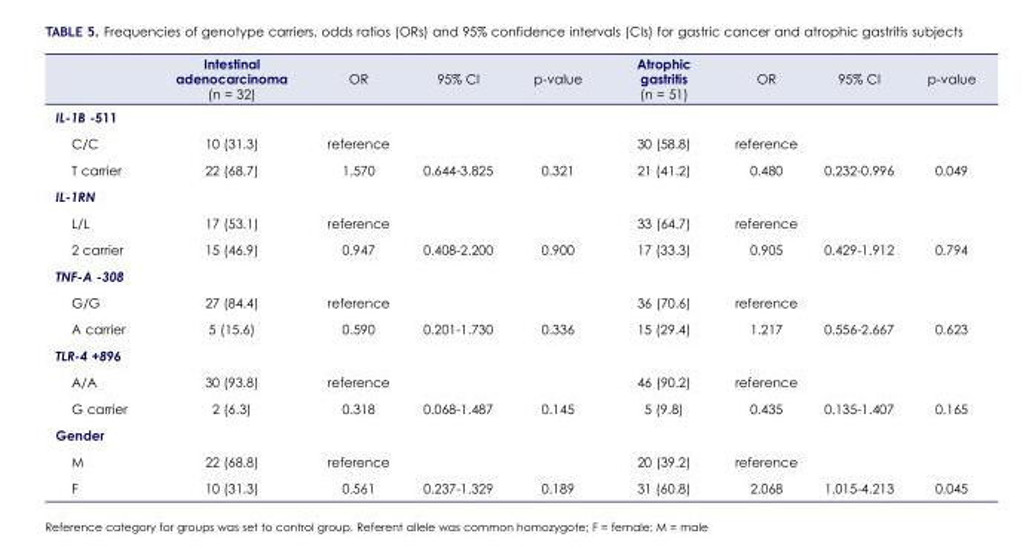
<table><thead><tr><td></td><td>Intestinal adenocarcinoma (n = 32)</td><td>OR</td><td>95% CI</td><td>p-value</td><td>Atrophic gastritis (n = 51)</td><td>OR</td><td>95% CI</td><td>p-value</td></tr></thead><tbody><tr><td colspan="9">IL-1B -511</td></tr><tr><td>C/C</td><td>10 (31.3)</td><td>reference</td><td></td><td></td><td>30 (58.8)</td><td>reference</td><td></td><td></td></tr><tr><td>T carrier</td><td>22 (68.7)</td><td>1.570</td><td>0.644-3.825</td><td>0.321</td><td>21 (41.2)</td><td>0.480</td><td>0.232-0.996</td><td>0.049</td></tr><tr><td colspan="9">IL-1RN</td></tr><tr><td>L/L</td><td>17 (53.1)</td><td>reference</td><td></td><td></td><td>33 (64.7)</td><td>reference</td><td></td><td></td></tr><tr><td>2 carrier</td><td>15 (46.9)</td><td>0.947</td><td>0.408-2.200</td><td>0.900</td><td>17 (33.3)</td><td>0.905</td><td>0.429-1.912</td><td>0.794</td></tr><tr><td colspan="9">TNF-A -308</td></tr><tr><td>G/G</td><td>27 (84.4)</td><td>reference</td><td></td><td></td><td>36 (70.6)</td><td>reference</td><td></td><td></td></tr><tr><td>A carrier</td><td>5 (15.6)</td><td>0.590</td><td>0.201-1.730</td><td>0.336</td><td>15 (29.4)</td><td>1.217</td><td>0.556-2.667</td><td>0.623</td></tr><tr><td colspan="9">TLR-4 +896</td></tr><tr><td>A/A</td><td>30 (93.8)</td><td>reference</td><td></td><td></td><td>46 (90.2)</td><td>reference</td><td></td><td></td></tr><tr><td>G carrier</td><td>2 (6.3)</td><td>0.318</td><td>0.068-1.487</td><td>0.145</td><td>5 (9.8)</td><td>0.435</td><td>0.135-1.407</td><td>0.165</td></tr><tr><td colspan="9">Gender</td></tr><tr><td>M</td><td>22 (68.8)</td><td>reference</td><td></td><td></td><td>20 (39.2)</td><td>reference</td><td></td><td></td></tr><tr><td>F</td><td>10 (31.3)</td><td>0.561</td><td>0.237-1.329</td><td>0.189</td><td>31 (60.8)</td><td>2.068</td><td>1.015-4.213</td><td>0.045</td></tr></tbody></table>